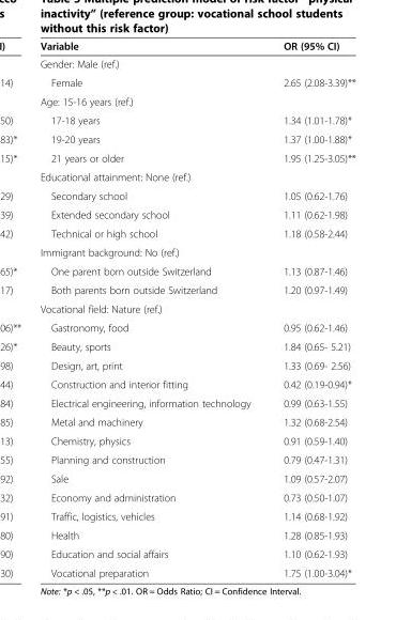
<table><thead><tr><td>Variable</td><td>OR (95% CI)</td></tr></thead><tbody><tr><td colspan="2">Gender: Male (ref.)</td></tr><tr><td>Female</td><td>2.65 (2.08-3.39)**</td></tr><tr><td colspan="2">Age: 15-16 years (ref.)</td></tr><tr><td>17-18 years</td><td>1.34 (1.01-1.78)*</td></tr><tr><td>19-20 years</td><td>1.37 (1.00-1.88)*</td></tr><tr><td>21 years or older</td><td>1.95 (1.25-3.05)**</td></tr><tr><td colspan="2">Educational attainment: None (ref.)</td></tr><tr><td>Secondary school</td><td>1.05 (0.62-1.76)</td></tr><tr><td>Extended secondary school</td><td>1.11 (0.62-1.98)</td></tr><tr><td>Technical or high school</td><td>1.18 (0.58-2.44)</td></tr><tr><td colspan="2">Immigrant background: No (ref.)</td></tr><tr><td>One parent born outside Switzerland</td><td>1.13 (0.87-1.46)</td></tr><tr><td>Both parents born outside Switzerland</td><td>1.20 (0.97-1.49)</td></tr><tr><td colspan="2">Vocational field: Nature (ref.)</td></tr><tr><td>Gastronomy, food</td><td>0.95 (0.62-1.46)</td></tr><tr><td>Beauty, sports</td><td>1.84 (0.65- 5.21)</td></tr><tr><td>Design, art, print</td><td>1.33 (0.69- 2.56)</td></tr><tr><td>Construction and interior fitting</td><td>0.42 (0.19-0.94)*</td></tr><tr><td>Electrical engineering, information technology</td><td>0.99 (0.63-1.55)</td></tr><tr><td>Metal and machinery</td><td>1.32 (0.68-2.54)</td></tr><tr><td>Chemistry, physics</td><td>0.91 (0.59-1.40)</td></tr><tr><td>Planning and construction</td><td>0.79 (0.47-1.31)</td></tr><tr><td>Sale</td><td>1.09 (0.57-2.07)</td></tr><tr><td>Economy and administration</td><td>0.73 (0.50-1.07)</td></tr><tr><td>Traffic, logistics, vehicles</td><td>1.14 (0.68-1.92)</td></tr><tr><td>Health</td><td>1.28 (0.85-1.93)</td></tr><tr><td>Education and social affairs</td><td>1.10 (0.62-1.93)</td></tr><tr><td>Vocational preparation</td><td>1.75 (1.00-3.04)*</td></tr></tbody></table>